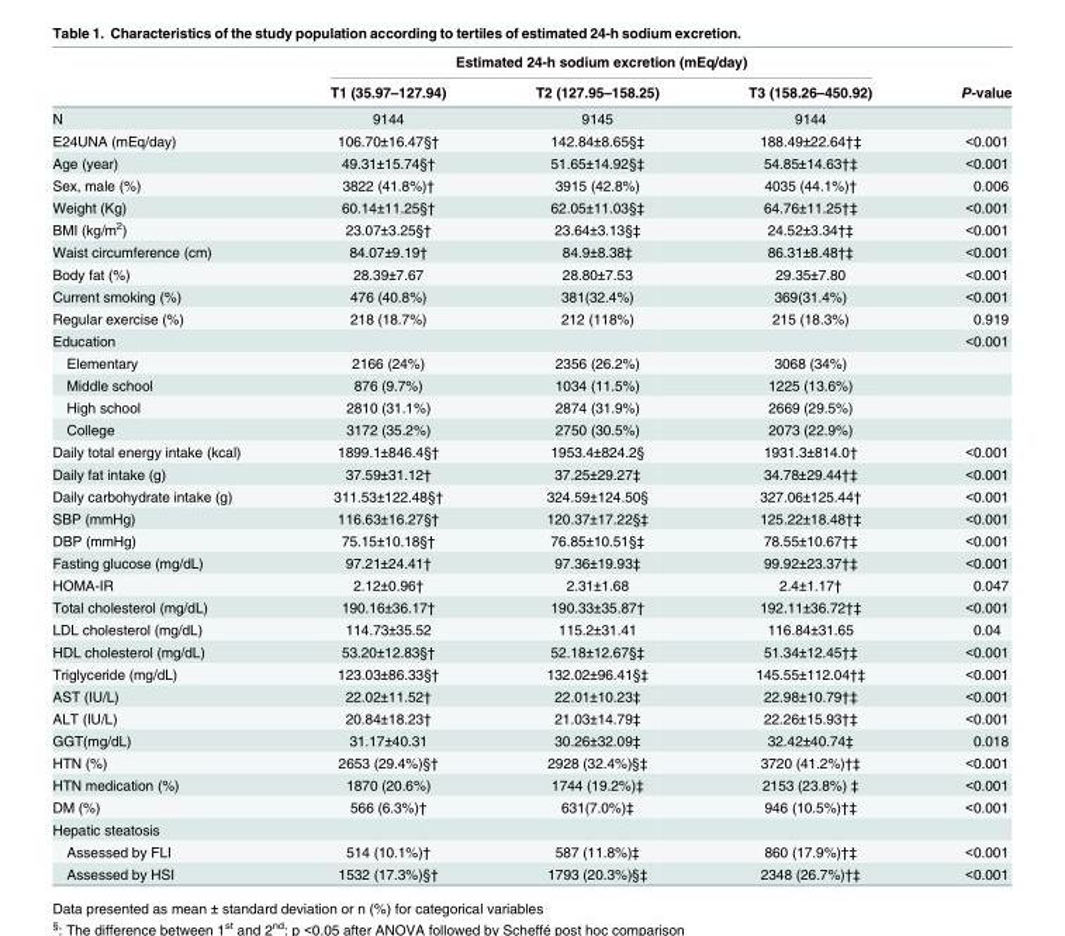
<table><thead><tr><td rowspan="2"></td><td colspan="3">Estimated 24-h sodium excretion (mEq/day)</td><td rowspan="2">P-value</td></tr><tr><td>T1 (35.97–127.94)</td><td>T2 (127.95–158.25)</td><td>T3 (158.26–450.92)</td></tr></thead><tbody><tr><td>N</td><td>9144</td><td>9145</td><td>9144</td><td></td></tr><tr><td>E24UNA (mEq/day)</td><td>106.70±16.47§†</td><td>142.84±8.65§‡</td><td>188.49±22.64†‡</td><td>&lt;0.001</td></tr><tr><td>Age (year)</td><td>49.31±15.74§†</td><td>51.65±14.92§‡</td><td>54.85±14.63†‡</td><td>&lt;0.001</td></tr><tr><td>Sex, male (%)</td><td>3822 (41.8%)†</td><td>3915 (42.8%)</td><td>4035 (44.1%)†</td><td>0.006</td></tr><tr><td>Weight (Kg)</td><td>60.14±11.25§†</td><td>62.05±11.03§‡</td><td>64.76±11.25†‡</td><td>&lt;0.001</td></tr><tr><td>BMI (kg/m<sup>2</sup>)</td><td>23.07±3.25§†</td><td>23.64±3.13§‡</td><td>24.52±3.34†‡</td><td>&lt;0.001</td></tr><tr><td>Waist circumference (cm)</td><td>84.07±9.19†</td><td>84.9±8.38‡</td><td>86.31±8.48†‡</td><td>&lt;0.001</td></tr><tr><td>Body fat (%)</td><td>28.39±7.67</td><td>28.80±7.53</td><td>29.35±7.80</td><td>&lt;0.001</td></tr><tr><td>Current smoking (%)</td><td>476 (40.8%)</td><td>381(32.4%)</td><td>369(31.4%)</td><td>&lt;0.001</td></tr><tr><td>Regular exercise (%)</td><td>218 (18.7%)</td><td>212 (118%)</td><td>215 (18.3%)</td><td>0.919</td></tr><tr><td>Education</td><td></td><td></td><td></td><td>&lt;0.001</td></tr><tr><td>Elementary</td><td>2166 (24%)</td><td>2356 (26.2%)</td><td>3068 (34%)</td><td></td></tr><tr><td>Middle school</td><td>876 (9.7%)</td><td>1034 (11.5%)</td><td>1225 (13.6%)</td><td></td></tr><tr><td>High school</td><td>2810 (31.1%)</td><td>2874 (31.9%)</td><td>2669 (29.5%)</td><td></td></tr><tr><td>College</td><td>3172 (35.2%)</td><td>2750 (30.5%)</td><td>2073 (22.9%)</td><td></td></tr><tr><td>Daily total energy intake (kcal)</td><td>1899.1±846.4§†</td><td>1953.4±824.2§</td><td>1931.3±814.0†</td><td>&lt;0.001</td></tr><tr><td>Daily fat intake (g)</td><td>37.59±31.12†</td><td>37.25±29.27‡</td><td>34.78±29.44†‡</td><td>&lt;0.001</td></tr><tr><td>Daily carbohydrate intake (g)</td><td>311.53±122.48§†</td><td>324.59±124.50§</td><td>327.06±125.44†</td><td>&lt;0.001</td></tr><tr><td>SBP (mmHg)</td><td>116.63±16.27§†</td><td>120.37±17.22§‡</td><td>125.22±18.48†‡</td><td>&lt;0.001</td></tr><tr><td>DBP (mmHg)</td><td>75.15±10.18§†</td><td>76.85±10.51§‡</td><td>78.55±10.67†‡</td><td>&lt;0.001</td></tr><tr><td>Fasting glucose (mg/dL)</td><td>97.21±24.41†</td><td>97.36±19.93‡</td><td>99.92±23.37†‡</td><td>&lt;0.001</td></tr><tr><td>HOMA-IR</td><td>2.12±0.96†</td><td>2.31±1.68</td><td>2.4±1.17†</td><td>0.047</td></tr><tr><td>Total cholesterol (mg/dL)</td><td>190.16±36.17†</td><td>190.33±35.87†</td><td>192.11±36.72†‡</td><td>&lt;0.001</td></tr><tr><td>LDL cholesterol (mg/dL)</td><td>114.73±35.52</td><td>115.2±31.41</td><td>116.84±31.65</td><td>0.04</td></tr><tr><td>HDL cholesterol (mg/dL)</td><td>53.20±12.83§†</td><td>52.18±12.67§‡</td><td>51.34±12.45†‡</td><td>&lt;0.001</td></tr><tr><td>Triglyceride (mg/dL)</td><td>123.03±86.33§†</td><td>132.02±96.41§‡</td><td>145.55±112.04†‡</td><td>&lt;0.001</td></tr><tr><td>AST (IU/L)</td><td>22.02±11.52†</td><td>22.01±10.23‡</td><td>22.98±10.79†‡</td><td>&lt;0.001</td></tr><tr><td>ALT (IU/L)</td><td>20.84±18.23†</td><td>21.03±14.79‡</td><td>22.26±15.93†‡</td><td>&lt;0.001</td></tr><tr><td>GGT(mg/dL)</td><td>31.17±40.31</td><td>30.26±32.09‡</td><td>32.42±40.74‡</td><td>0.018</td></tr><tr><td>HTN (%)</td><td>2653 (29.4%)§†</td><td>2928 (32.4%)§‡</td><td>3720 (41.2%)†‡</td><td>&lt;0.001</td></tr><tr><td>HTN medication (%)</td><td>1870 (20.6%)</td><td>1744 (19.2%)‡</td><td>2153 (23.8%) ‡</td><td>&lt;0.001</td></tr><tr><td>DM (%)</td><td>566 (6.3%)†</td><td>631(7.0%)‡</td><td>946 (10.5%)†‡</td><td>&lt;0.001</td></tr><tr><td colspan="5">Hepatic steatosis</td></tr><tr><td>Assessed by FLI</td><td>514 (10.1%)†</td><td>587 (11.8%)‡</td><td>860 (17.9%)†‡</td><td>&lt;0.001</td></tr><tr><td>Assessed by HSI</td><td>1532 (17.3%)§†</td><td>1793 (20.3%)§‡</td><td>2348 (26.7%)†‡</td><td>&lt;0.001</td></tr></tbody></table>